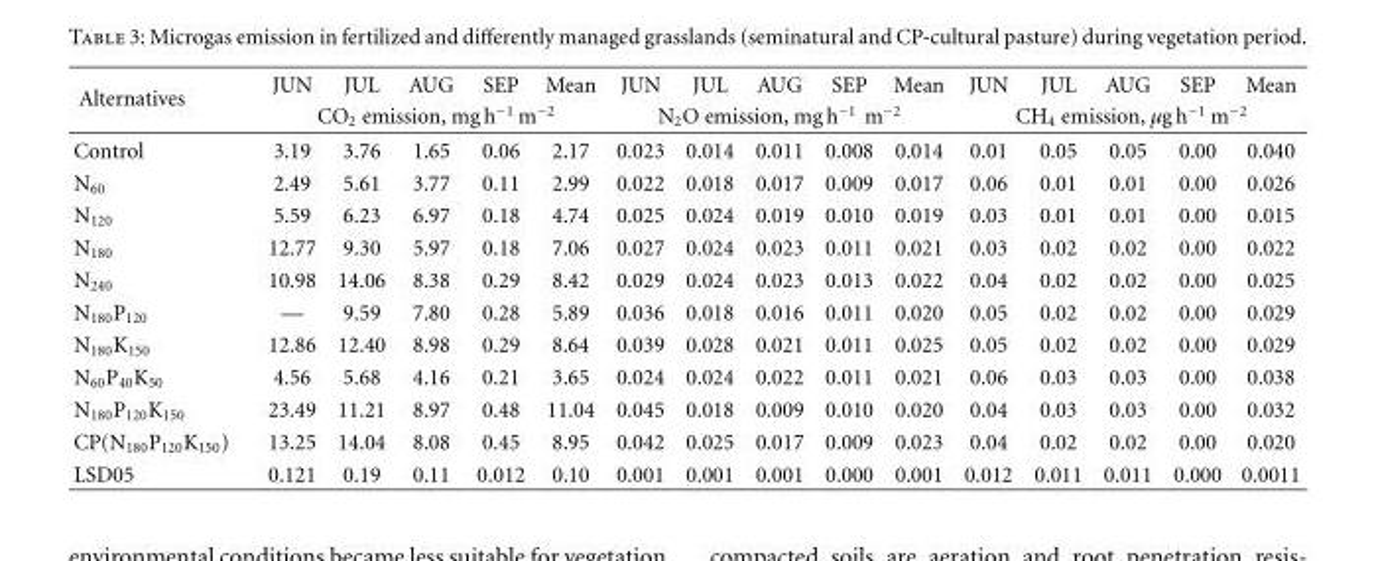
<table><thead><tr><td rowspan="2">Alternatives</td><td>JUN</td><td>JUL</td><td>AUG</td><td>SEP</td><td>Mean</td><td>JUN</td><td>JUL</td><td>AUG</td><td>SEP</td><td>Mean</td><td>JUN</td><td>JUL</td><td>AUG</td><td>SEP</td><td>Mean</td></tr><tr><td colspan="5">CO<sub>2</sub> emission, mg h<sup>−1</sup> m<sup>−2</sup></td><td colspan="5">N<sub>2</sub>O emission, mg h<sup>−1</sup> m<sup>−2</sup></td><td colspan="5">CH<sub>4</sub> emission, μg h<sup>−1</sup> m<sup>−2</sup></td></tr></thead><tbody><tr><td>Control</td><td>3.19</td><td>3.76</td><td>1.65</td><td>0.06</td><td>2.17</td><td>0.023</td><td>0.014</td><td>0.011</td><td>0.008</td><td>0.014</td><td>0.01</td><td>0.05</td><td>0.05</td><td>0.00</td><td>0.040</td></tr><tr><td>N<sub>60</sub></td><td>2.49</td><td>5.61</td><td>3.77</td><td>0.11</td><td>2.99</td><td>0.022</td><td>0.018</td><td>0.017</td><td>0.009</td><td>0.017</td><td>0.06</td><td>0.01</td><td>0.01</td><td>0.00</td><td>0.026</td></tr><tr><td>N<sub>120</sub></td><td>5.59</td><td>6.23</td><td>6.97</td><td>0.18</td><td>4.74</td><td>0.025</td><td>0.024</td><td>0.019</td><td>0.010</td><td>0.019</td><td>0.03</td><td>0.01</td><td>0.01</td><td>0.00</td><td>0.015</td></tr><tr><td>N<sub>180</sub></td><td>12.77</td><td>9.30</td><td>5.97</td><td>0.18</td><td>7.06</td><td>0.027</td><td>0.024</td><td>0.023</td><td>0.011</td><td>0.021</td><td>0.03</td><td>0.02</td><td>0.02</td><td>0.00</td><td>0.022</td></tr><tr><td>N<sub>240</sub></td><td>10.98</td><td>14.06</td><td>8.38</td><td>0.29</td><td>8.42</td><td>0.029</td><td>0.024</td><td>0.023</td><td>0.013</td><td>0.022</td><td>0.04</td><td>0.02</td><td>0.02</td><td>0.00</td><td>0.025</td></tr><tr><td>N<sub>180</sub>P<sub>120</sub></td><td>—</td><td>9.59</td><td>7.80</td><td>0.28</td><td>5.89</td><td>0.036</td><td>0.018</td><td>0.016</td><td>0.011</td><td>0.020</td><td>0.05</td><td>0.02</td><td>0.02</td><td>0.00</td><td>0.029</td></tr><tr><td>N<sub>180</sub>K<sub>150</sub></td><td>12.86</td><td>12.40</td><td>8.98</td><td>0.29</td><td>8.64</td><td>0.039</td><td>0.028</td><td>0.021</td><td>0.011</td><td>0.025</td><td>0.05</td><td>0.02</td><td>0.02</td><td>0.00</td><td>0.029</td></tr><tr><td>N<sub>60</sub>P<sub>40</sub>K<sub>50</sub></td><td>4.56</td><td>5.68</td><td>4.16</td><td>0.21</td><td>3.65</td><td>0.024</td><td>0.024</td><td>0.022</td><td>0.011</td><td>0.021</td><td>0.06</td><td>0.03</td><td>0.03</td><td>0.00</td><td>0.038</td></tr><tr><td>N<sub>180</sub>P<sub>120</sub>K<sub>150</sub></td><td>23.49</td><td>11.21</td><td>8.97</td><td>0.48</td><td>11.04</td><td>0.045</td><td>0.018</td><td>0.009</td><td>0.010</td><td>0.020</td><td>0.04</td><td>0.03</td><td>0.03</td><td>0.00</td><td>0.032</td></tr><tr><td>CP(N<sub>180</sub>P<sub>120</sub>K<sub>150</sub>)</td><td>13.25</td><td>14.04</td><td>8.08</td><td>0.45</td><td>8.95</td><td>0.042</td><td>0.025</td><td>0.017</td><td>0.009</td><td>0.023</td><td>0.04</td><td>0.02</td><td>0.02</td><td>0.00</td><td>0.020</td></tr><tr><td>LSD05</td><td>0.121</td><td>0.19</td><td>0.11</td><td>0.012</td><td>0.10</td><td>0.001</td><td>0.001</td><td>0.001</td><td>0.000</td><td>0.001</td><td>0.012</td><td>0.011</td><td>0.011</td><td>0.000</td><td>0.0011</td></tr></tbody></table>